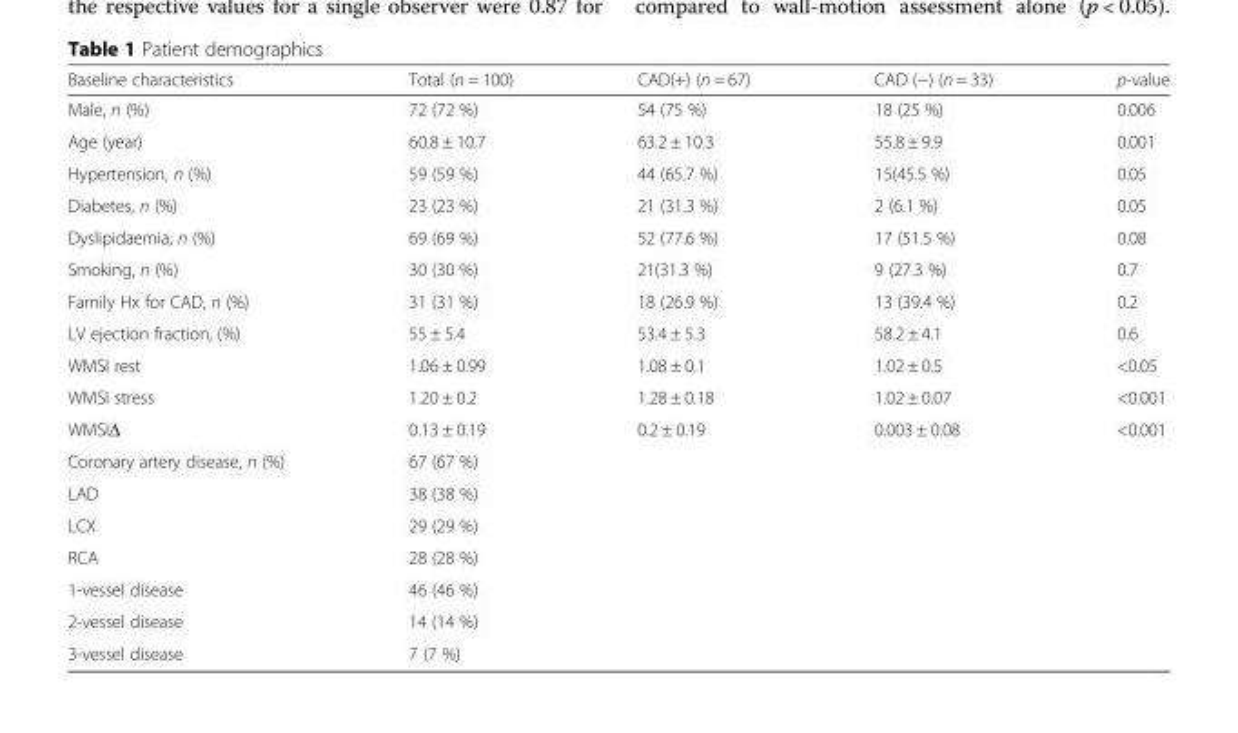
<table><thead><tr><td>Baseline characteristics</td><td>Total (n = 100)</td><td>CAD(+) (n = 67)</td><td>CAD (−) (n = 33)</td><td>p-value</td></tr></thead><tbody><tr><td>Male, n (%)</td><td>72 (72 %)</td><td>54 (75 %)</td><td>18 (25 %)</td><td>0.006</td></tr><tr><td>Age (year)</td><td>60.8 ± 10.7</td><td>63.2 ± 10.3</td><td>55.8 ± 9.9</td><td>0.001</td></tr><tr><td>Hypertension, n (%)</td><td>59 (59 %)</td><td>44 (65.7 %)</td><td>15(45.5 %)</td><td>0.05</td></tr><tr><td>Diabetes, n (%)</td><td>23 (23 %)</td><td>21 (31.3 %)</td><td>2 (6.1 %)</td><td>0.05</td></tr><tr><td>Dyslipidaemia, n (%)</td><td>69 (69 %)</td><td>52 (77.6 %)</td><td>17 (51.5 %)</td><td>0.08</td></tr><tr><td>Smoking, n (%)</td><td>30 (30 %)</td><td>21(31.3 %)</td><td>9 (27.3 %)</td><td>0.7</td></tr><tr><td>Family Hx for CAD, n (%)</td><td>31 (31 %)</td><td>18 (26.9 %)</td><td>13 (39.4 %)</td><td>0.2</td></tr><tr><td>LV ejection fraction, (%)</td><td>55 ± 5.4</td><td>53.4 ± 5.3</td><td>58.2 ± 4.1</td><td>0.6</td></tr><tr><td>WMSI rest</td><td>1.06 ± 0.99</td><td>1.08 ± 0.1</td><td>1.02 ± 0.5</td><td>&lt;0.05</td></tr><tr><td>WMSI stress</td><td>1.20 ± 0.2</td><td>1.28 ± 0.18</td><td>1.02 ± 0.07</td><td>&lt;0.001</td></tr><tr><td>WMSIΔ</td><td>0.13 ± 0.19</td><td>0.2 ± 0.19</td><td>0.003 ± 0.08</td><td>&lt;0.001</td></tr><tr><td>Coronary artery disease, n (%)</td><td>67 (67 %)</td><td></td><td></td><td></td></tr><tr><td>LAD</td><td>38 (38 %)</td><td></td><td></td><td></td></tr><tr><td>LCX</td><td>29 (29 %)</td><td></td><td></td><td></td></tr><tr><td>RCA</td><td>28 (28 %)</td><td></td><td></td><td></td></tr><tr><td>1-vessel disease</td><td>46 (46 %)</td><td></td><td></td><td></td></tr><tr><td>2-vessel disease</td><td>14 (14 %)</td><td></td><td></td><td></td></tr><tr><td>3-vessel disease</td><td>7 (7 %)</td><td></td><td></td><td></td></tr></tbody></table>